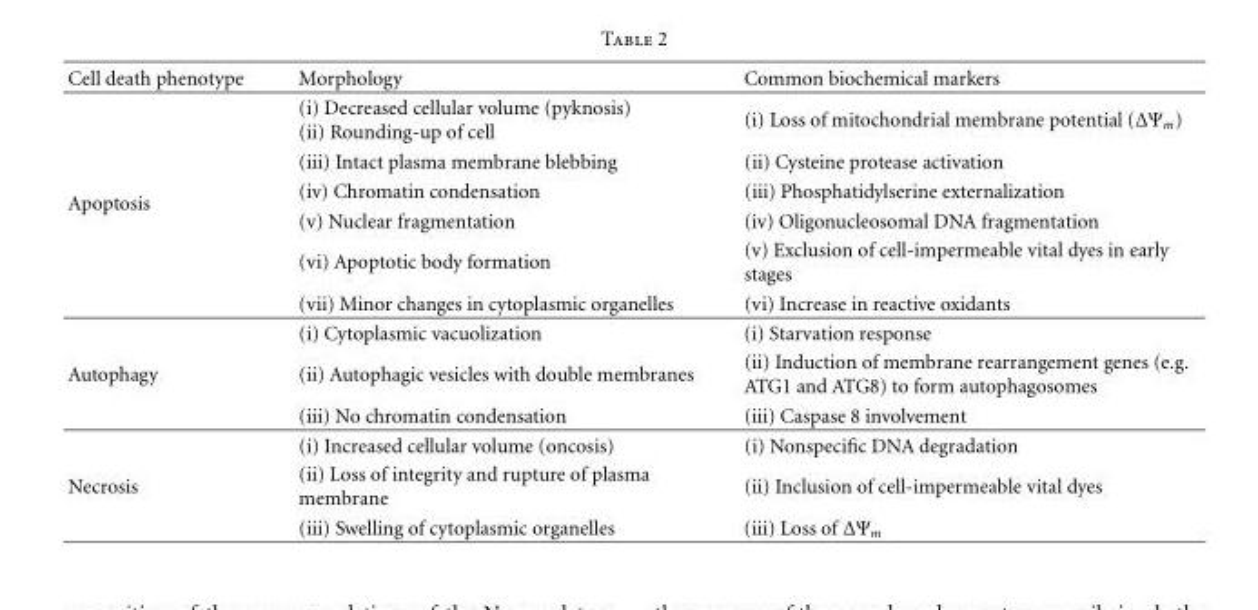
<table><thead><tr><td>Cell death phenotype</td><td>Morphology</td><td>Common biochemical markers</td></tr></thead><tbody><tr><td rowspan="6">Apoptosis</td><td>(i) Decreased cellular volume (pyknosis) (ii) Rounding-up of cell</td><td>(i) Loss of mitochondrial membrane potential (ΔΨ<sub>m</sub>)</td></tr><tr><td>(iii) Intact plasma membrane blebbing</td><td>(ii) Cysteine protease activation</td></tr><tr><td>(iv) Chromatin condensation</td><td>(iii) Phosphatidylserine externalization</td></tr><tr><td>(v) Nuclear fragmentation</td><td>(iv) Oligonucleosomal DNA fragmentation</td></tr><tr><td>(vi) Apoptotic body formation</td><td>(v) Exclusion of cell-impermeable vital dyes in early stages</td></tr><tr><td>(vii) Minor changes in cytoplasmic organelles</td><td>(vi) Increase in reactive oxidants</td></tr><tr><td rowspan="3">Autophagy</td><td>(i) Cytoplasmic vacuolization</td><td>(i) Starvation response</td></tr><tr><td>(ii) Autophagic vesicles with double membranes</td><td>(ii) Induction of membrane rearrangement genes (e.g. ATG1 and ATG8) to form autophagosomes</td></tr><tr><td>(iii) No chromatin condensation</td><td>(iii) Caspase 8 involvement</td></tr><tr><td rowspan="3">Necrosis</td><td>(i) Increased cellular volume (oncosis)</td><td>(i) Nonspecific DNA degradation</td></tr><tr><td>(ii) Loss of integrity and rupture of plasma membrane</td><td>(ii) Inclusion of cell-impermeable vital dyes</td></tr><tr><td>(iii) Swelling of cytoplasmic organelles</td><td>(iii) Loss of ΔΨ<sub>m</sub></td></tr></tbody></table>